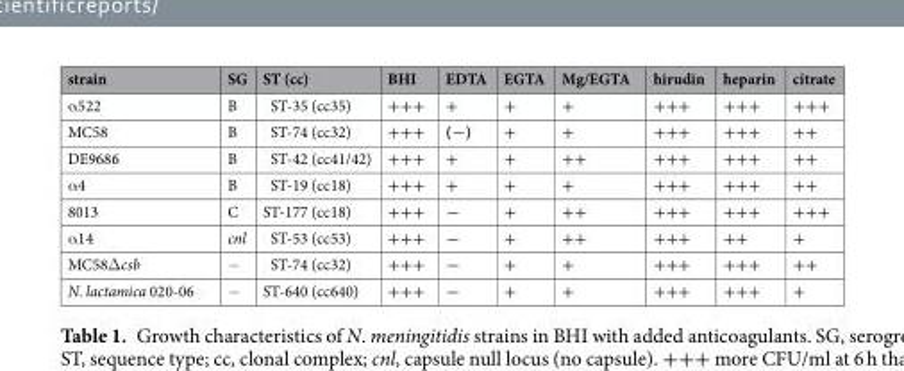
<table><thead><tr><td>strain</td><td>SG</td><td>ST (cc)</td><td>BHI</td><td>EDTA</td><td>EGTA</td><td>Mg/EGTA</td><td>hirudin</td><td>heparin</td><td>citrate</td></tr></thead><tbody><tr><td>α522</td><td>B</td><td>ST-35 (cc35)</td><td>+++</td><td>+</td><td>+</td><td>+</td><td>+++</td><td>+++</td><td>+++</td></tr><tr><td>MC58</td><td>B</td><td>ST-74 (cc32)</td><td>+++</td><td>(−)</td><td>+</td><td>+</td><td>+++</td><td>+++</td><td>++</td></tr><tr><td>DE9686</td><td>B</td><td>ST-42 (cc41/42)</td><td>+++</td><td>+</td><td>+</td><td>++</td><td>+++</td><td>+++</td><td>++</td></tr><tr><td>α4</td><td>B</td><td>ST-19 (cc18)</td><td>+++</td><td>+</td><td>+</td><td>+</td><td>+++</td><td>+++</td><td>++</td></tr><tr><td>8013</td><td>C</td><td>ST-177 (cc18)</td><td>+++</td><td>−</td><td>+</td><td>++</td><td>+++</td><td>+++</td><td>+++</td></tr><tr><td>α14</td><td>cnl</td><td>ST-53 (cc53)</td><td>+++</td><td>−</td><td>+</td><td>++</td><td>+++</td><td>++</td><td>+</td></tr><tr><td>MC58Δcsb</td><td>−</td><td>ST-74 (cc32)</td><td>+++</td><td>−</td><td>+</td><td>+</td><td>+++</td><td>+++</td><td>++</td></tr><tr><td>N. lactamica 020-06</td><td>−</td><td>ST-640 (cc640)</td><td>+++</td><td>−</td><td>+</td><td>+</td><td>+++</td><td>+++</td><td>+</td></tr></tbody></table>